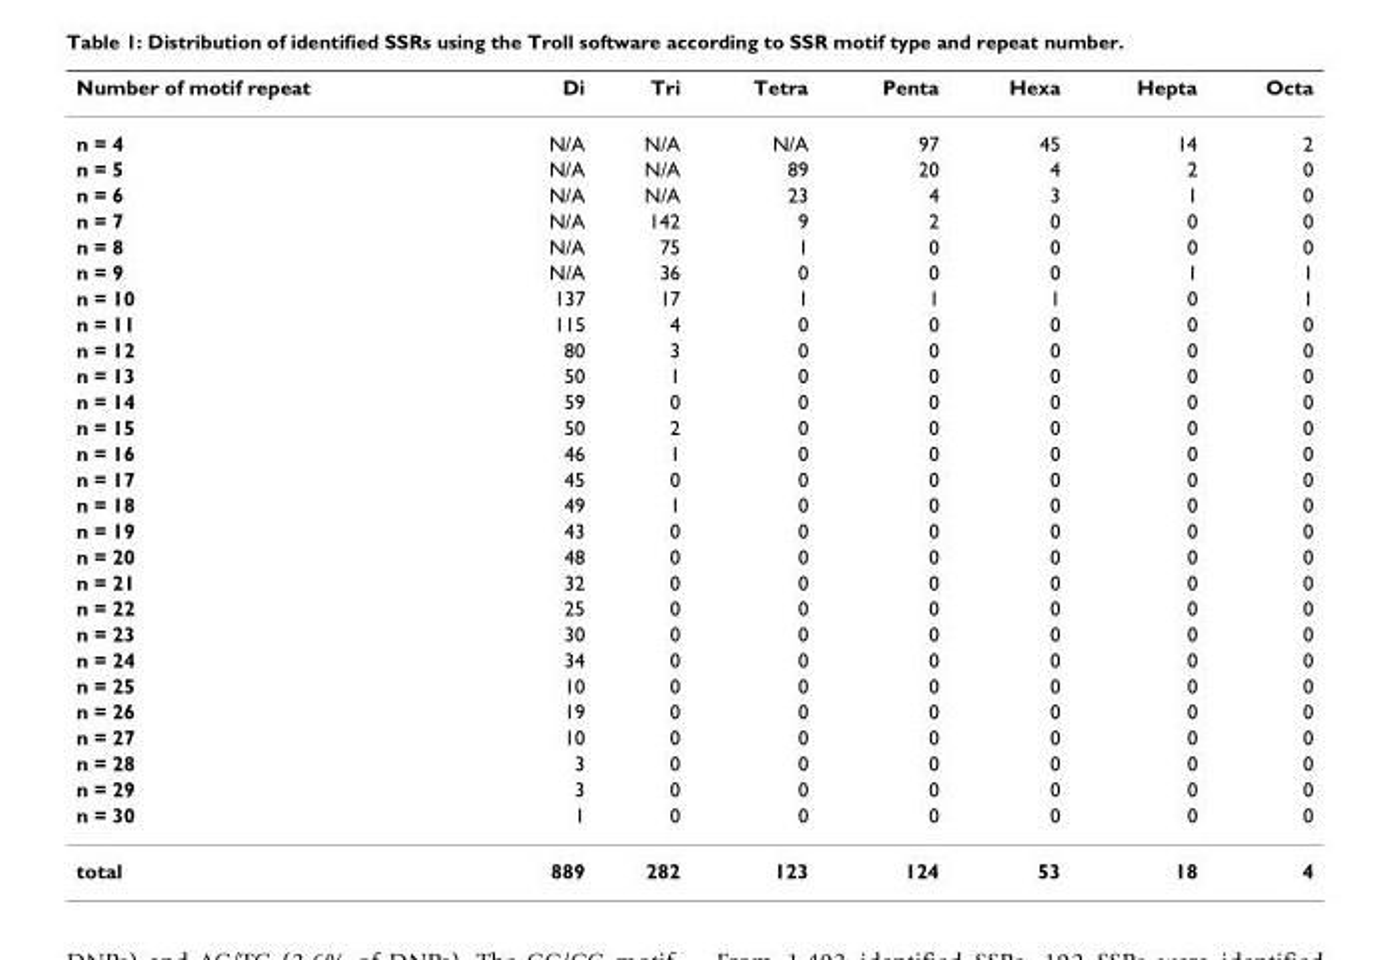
<table><thead><tr><td>Number of motif repeat</td><td>Di</td><td>Tri</td><td>Tetra</td><td>Penta</td><td>Hexa</td><td>Hepta</td><td>Octa</td></tr></thead><tbody><tr><td>n = 4</td><td>N/A</td><td>N/A</td><td>N/A</td><td>97</td><td>45</td><td>14</td><td>2</td></tr><tr><td>n = 5</td><td>N/A</td><td>N/A</td><td>89</td><td>20</td><td>4</td><td>2</td><td>0</td></tr><tr><td>n = 6</td><td>N/A</td><td>N/A</td><td>23</td><td>4</td><td>3</td><td>1</td><td>0</td></tr><tr><td>n = 7</td><td>N/A</td><td>142</td><td>9</td><td>2</td><td>0</td><td>0</td><td>0</td></tr><tr><td>n = 8</td><td>N/A</td><td>75</td><td>1</td><td>0</td><td>0</td><td>0</td><td>0</td></tr><tr><td>n = 9</td><td>N/A</td><td>36</td><td>0</td><td>0</td><td>0</td><td>1</td><td>1</td></tr><tr><td>n = 10</td><td>137</td><td>17</td><td>1</td><td>1</td><td>1</td><td>0</td><td>1</td></tr><tr><td>n = 11</td><td>115</td><td>4</td><td>0</td><td>0</td><td>0</td><td>0</td><td>0</td></tr><tr><td>n = 12</td><td>80</td><td>3</td><td>0</td><td>0</td><td>0</td><td>0</td><td>0</td></tr><tr><td>n = 13</td><td>50</td><td>1</td><td>0</td><td>0</td><td>0</td><td>0</td><td>0</td></tr><tr><td>n = 14</td><td>59</td><td>0</td><td>0</td><td>0</td><td>0</td><td>0</td><td>0</td></tr><tr><td>n = 15</td><td>50</td><td>2</td><td>0</td><td>0</td><td>0</td><td>0</td><td>0</td></tr><tr><td>n = 16</td><td>46</td><td>1</td><td>0</td><td>0</td><td>0</td><td>0</td><td>0</td></tr><tr><td>n = 17</td><td>45</td><td>0</td><td>0</td><td>0</td><td>0</td><td>0</td><td>0</td></tr><tr><td>n = 18</td><td>49</td><td>1</td><td>0</td><td>0</td><td>0</td><td>0</td><td>0</td></tr><tr><td>n = 19</td><td>43</td><td>0</td><td>0</td><td>0</td><td>0</td><td>0</td><td>0</td></tr><tr><td>n = 20</td><td>48</td><td>0</td><td>0</td><td>0</td><td>0</td><td>0</td><td>0</td></tr><tr><td>n = 21</td><td>32</td><td>0</td><td>0</td><td>0</td><td>0</td><td>0</td><td>0</td></tr><tr><td>n = 22</td><td>25</td><td>0</td><td>0</td><td>0</td><td>0</td><td>0</td><td>0</td></tr><tr><td>n = 23</td><td>30</td><td>0</td><td>0</td><td>0</td><td>0</td><td>0</td><td>0</td></tr><tr><td>n = 24</td><td>34</td><td>0</td><td>0</td><td>0</td><td>0</td><td>0</td><td>0</td></tr><tr><td>n = 25</td><td>10</td><td>0</td><td>0</td><td>0</td><td>0</td><td>0</td><td>0</td></tr><tr><td>n = 26</td><td>19</td><td>0</td><td>0</td><td>0</td><td>0</td><td>0</td><td>0</td></tr><tr><td>n = 27</td><td>10</td><td>0</td><td>0</td><td>0</td><td>0</td><td>0</td><td>0</td></tr><tr><td>n = 28</td><td>3</td><td>0</td><td>0</td><td>0</td><td>0</td><td>0</td><td>0</td></tr><tr><td>n = 29</td><td>3</td><td>0</td><td>0</td><td>0</td><td>0</td><td>0</td><td>0</td></tr><tr><td>n = 30</td><td>1</td><td>0</td><td>0</td><td>0</td><td>0</td><td>0</td><td>0</td></tr><tr><td>total</td><td>889</td><td>282</td><td>123</td><td>124</td><td>53</td><td>18</td><td>4</td></tr></tbody></table>